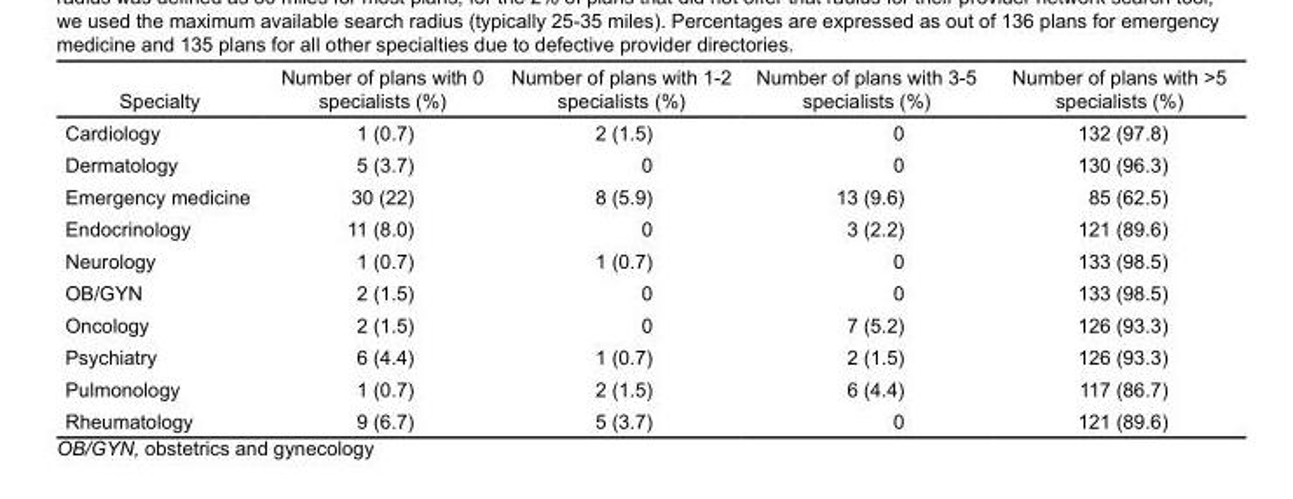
<table><thead><tr><td>Specialty</td><td>Number of plans with 0 specialists (%)</td><td>Number of plans with 1-2 specialists (%)</td><td>Number of plans with 3-5 specialists (%)</td><td>Number of plans with &gt;5 specialists (%)</td></tr></thead><tbody><tr><td>Cardiology</td><td>1 (0.7)</td><td>2 (1.5)</td><td>0</td><td>132 (97.8)</td></tr><tr><td>Dermatology</td><td>5 (3.7)</td><td>0</td><td>0</td><td>130 (96.3)</td></tr><tr><td>Emergency medicine</td><td>30 (22)</td><td>8 (5.9)</td><td>13 (9.6)</td><td>85 (62.5)</td></tr><tr><td>Endocrinology</td><td>11 (8.0)</td><td>0</td><td>3 (2.2)</td><td>121 (89.6)</td></tr><tr><td>Neurology</td><td>1 (0.7)</td><td>1 (0.7)</td><td>0</td><td>133 (98.5)</td></tr><tr><td>OB/GYN</td><td>2 (1.5)</td><td>0</td><td>0</td><td>133 (98.5)</td></tr><tr><td>Oncology</td><td>2 (1.5)</td><td>0</td><td>7 (5.2)</td><td>126 (93.3)</td></tr><tr><td>Psychiatry</td><td>6 (4.4)</td><td>1 (0.7)</td><td>2 (1.5)</td><td>126 (93.3)</td></tr><tr><td>Pulmonology</td><td>1 (0.7)</td><td>2 (1.5)</td><td>6 (4.4)</td><td>117 (86.7)</td></tr><tr><td>Rheumatology</td><td>9 (6.7)</td><td>5 (3.7)</td><td>0</td><td>121 (89.6)</td></tr></tbody></table>